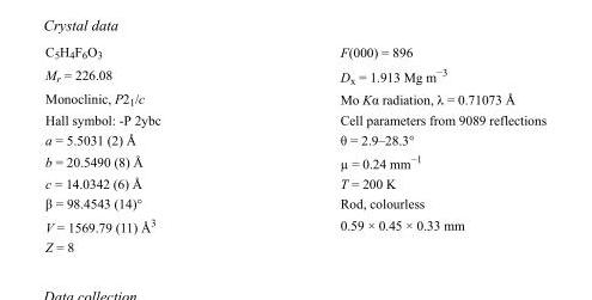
<table><tbody><tr><td>C<sub>5</sub>H<sub>4</sub>F<sub>6</sub>O<sub>3</sub></td><td>F(000) = 896</td></tr><tr><td>M<sub>r</sub> = 226.08</td><td>D<sub>x</sub> = 1.913 Mg m<sup>−3</sup></td></tr><tr><td>Monoclinic, P2<sub>1</sub>/c</td><td>Mo Kα radiation, λ = 0.71073 Å</td></tr><tr><td>Hall symbol: -P 2ybc</td><td>Cell parameters from 9089 reflections</td></tr><tr><td>a = 5.5031 (2) Å</td><td>θ = 2.9–28.3°</td></tr><tr><td>b = 20.5490 (8) Å</td><td>µ = 0.24 mm<sup>−1</sup></td></tr><tr><td>c = 14.0342 (6) Å</td><td>T = 200 K</td></tr><tr><td>β = 98.4543 (14)°</td><td>Rod, colourless</td></tr><tr><td>V = 1569.79 (11) Å<sup>3</sup></td><td>0.59 × 0.45 × 0.33 mm</td></tr><tr><td>Z = 8</td><td></td></tr></tbody></table>